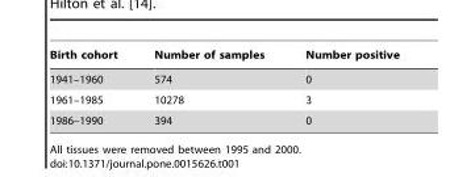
<table><thead><tr><td>Birth cohort</td><td>Number of samples</td><td>Number positive</td></tr></thead><tbody><tr><td>1941–1960</td><td>574</td><td>0</td></tr><tr><td>1961–1985</td><td>10278</td><td>3</td></tr><tr><td>1986–1990</td><td>394</td><td>0</td></tr></tbody></table>